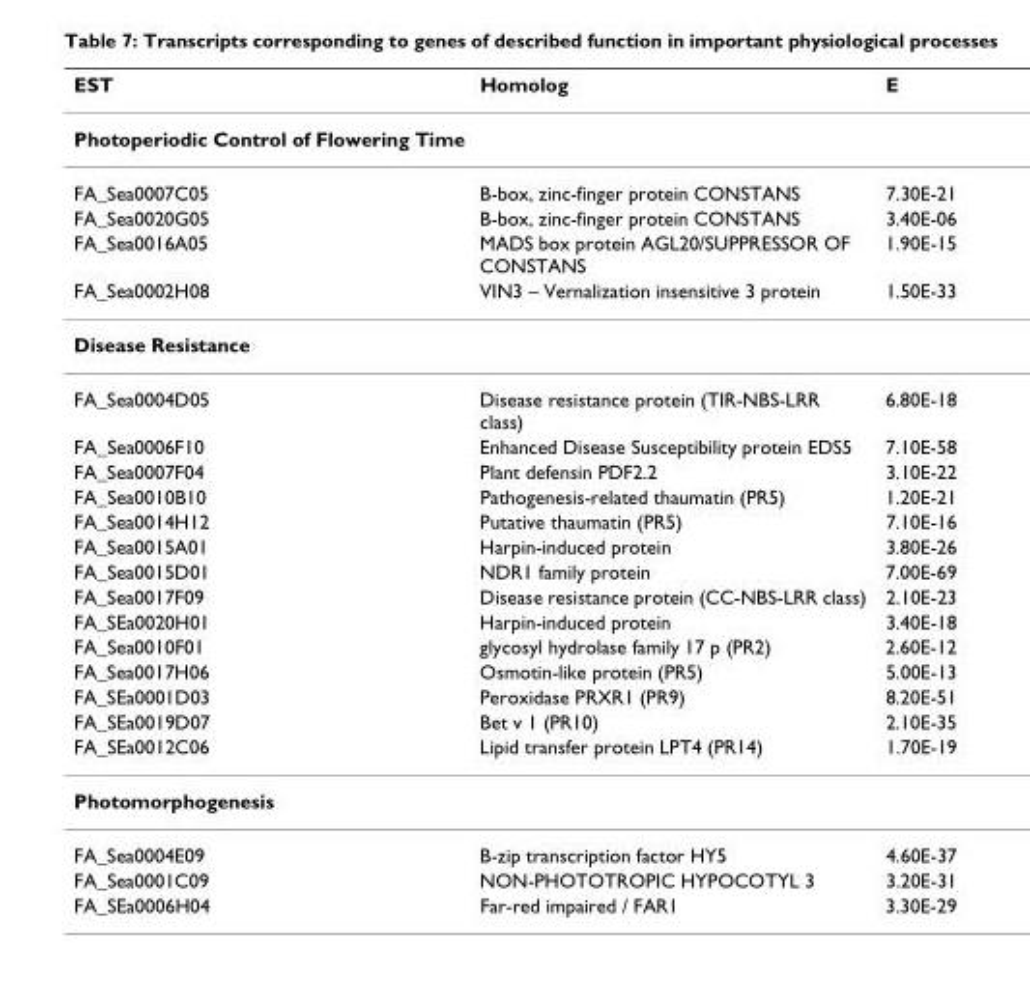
<table><thead><tr><td>EST</td><td>Homolog</td><td>E</td></tr></thead><tbody><tr><td colspan="3">Photoperiodic Control of Flowering Time</td></tr><tr><td>FA_Sea0007C05</td><td>B-box, zinc-finger protein CONSTANS</td><td>7.30E-21</td></tr><tr><td>FA_Sea0020G05</td><td>B-box, zinc-finger protein CONSTANS</td><td>3.40E-06</td></tr><tr><td>FA_Sea0016A05</td><td>MADS box protein AGL20/SUPPRESSOR OF CONSTANS</td><td>1.90E-15</td></tr><tr><td>FA_Sea0002H08</td><td>VIN3 – Vernalization insensitive 3 protein</td><td>1.50E-33</td></tr><tr><td colspan="3">Disease Resistance</td></tr><tr><td>FA_Sea0004D05</td><td>Disease resistance protein (TIR-NBS-LRR class)</td><td>6.80E-18</td></tr><tr><td>FA_Sea0006F10</td><td>Enhanced Disease Susceptibility protein EDS5</td><td>7.10E-58</td></tr><tr><td>FA_Sea0007F04</td><td>Plant defensin PDF2.2</td><td>3.10E-22</td></tr><tr><td>FA_Sea0010B10</td><td>Pathogenesis-related thaumatin (PR5)</td><td>1.20E-21</td></tr><tr><td>FA_Sea0014H12</td><td>Putative thaumatin (PR5)</td><td>7.10E-16</td></tr><tr><td>FA_Sea0015A01</td><td>Harpin-induced protein</td><td>3.80E-26</td></tr><tr><td>FA_Sea0015D01</td><td>NDR1 family protein</td><td>7.00E-69</td></tr><tr><td>FA_Sea0017F09</td><td>Disease resistance protein (CC-NBS-LRR class)</td><td>2.10E-23</td></tr><tr><td>FA_SEa0020H01</td><td>Harpin-induced protein</td><td>3.40E-18</td></tr><tr><td>FA_Sea0010F01</td><td>glycosyl hydrolase family 17 p (PR2)</td><td>2.60E-12</td></tr><tr><td>FA_Sea0017H06</td><td>Osmotin-like protein (PR5)</td><td>5.00E-13</td></tr><tr><td>FA_SEa0001D03</td><td>Peroxidase PRXR1 (PR9)</td><td>8.20E-51</td></tr><tr><td>FA_SEa0019D07</td><td>Bet v 1 (PR10)</td><td>2.10E-35</td></tr><tr><td>FA_SEa0012C06</td><td>Lipid transfer protein LPT4 (PR14)</td><td>1.70E-19</td></tr><tr><td colspan="3">Photomorphogenesis</td></tr><tr><td>FA_Sea0004E09</td><td>B-zip transcription factor HY5</td><td>4.60E-37</td></tr><tr><td>FA_Sea0001C09</td><td>NON-PHOTOTROPIC HYPOCOTYL 3</td><td>3.20E-31</td></tr><tr><td>FA_SEa0006H04</td><td>Far-red impaired / FAR1</td><td>3.30E-29</td></tr></tbody></table>